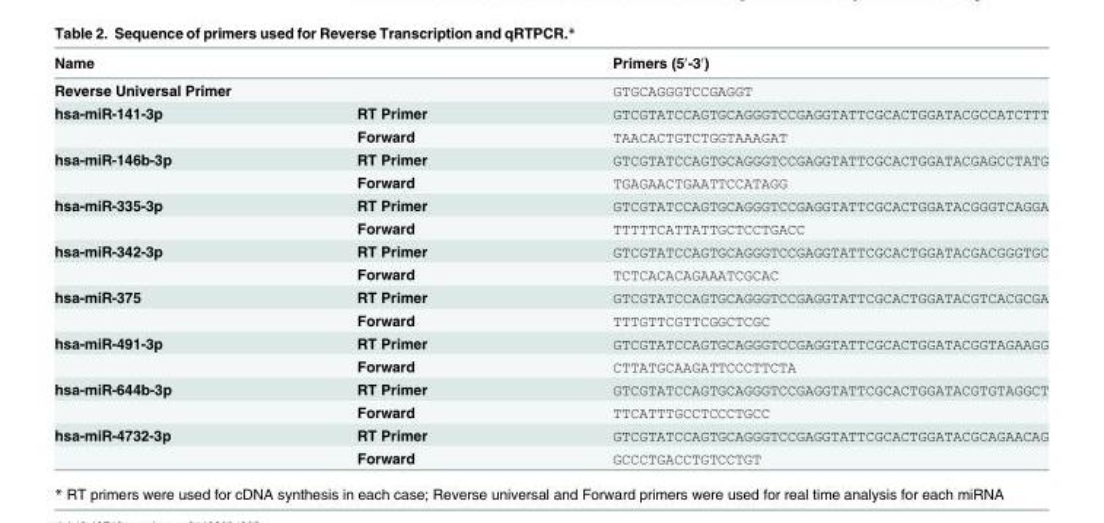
<table><thead><tr><td rowspan="2" colspan="2">Name Reverse Universal Primer</td><td rowspan="3">Primers (5′-3′) GTGCAGGGTCCGAGGT GTCGTATCCAGTGCAGGGTCCGAGGTATTCGCACTGGATACGCCATCTTT</td></tr><tr></tr><tr><td>hsa-miR-141-3p</td><td>RT Primer</td></tr></thead><tbody><tr><td></td><td>Forward</td><td>TAACACTGTCTGGTAAAGAT</td></tr><tr><td rowspan="2">hsa-miR-146b-3p</td><td>RT Primer</td><td>GTCGTATCCAGTGCAGGGTCCGAGGTATTCGCACTGGATACGAGCCTATG</td></tr><tr><td>Forward</td><td>TGAGAACTGAATTCCATAGG</td></tr><tr><td rowspan="2">hsa-miR-335-3p</td><td>RT Primer</td><td>GTCGTATCCAGTGCAGGGTCCGAGGTATTCGCACTGGATACGGGTCAGGA</td></tr><tr><td>Forward</td><td>TTTTTCATTATTGCTCCTGACC</td></tr><tr><td rowspan="2">hsa-miR-342-3p</td><td>RT Primer</td><td>GTCGTATCCAGTGCAGGGTCCGAGGTATTCGCACTGGATACGACGGGTGC</td></tr><tr><td>Forward</td><td>TCTCACACAGAAATCGCAC</td></tr><tr><td rowspan="2">hsa-miR-375</td><td>RT Primer</td><td>GTCGTATCCAGTGCAGGGTCCGAGGTATTCGCACTGGATACGTCACGCGA</td></tr><tr><td>Forward</td><td>TTTGTTCGTTCGGCTCGC</td></tr><tr><td rowspan="2">hsa-miR-491-3p</td><td>RT Primer</td><td>GTCGTATCCAGTGCAGGGTCCGAGGTATTCGCACTGGATACGGTAGAAGG</td></tr><tr><td>Forward</td><td>CTTATGCAAGATTCCCTTCTA</td></tr><tr><td rowspan="2">hsa-miR-644b-3p</td><td>RT Primer</td><td>GTCGTATCCAGTGCAGGGTCCGAGGTATTCGCACTGGATACGTGTAGGCT</td></tr><tr><td>Forward</td><td>TTCATTTGCCTCCCTGCC</td></tr><tr><td rowspan="2">hsa-miR-4732-3p</td><td>RT Primer</td><td>GTCGTATCCAGTGCAGGGTCCGAGGTATTCGCACTGGATACGCAGAACAG</td></tr><tr><td>Forward</td><td>GCCCTGACCTGTCCTGT</td></tr></tbody></table>